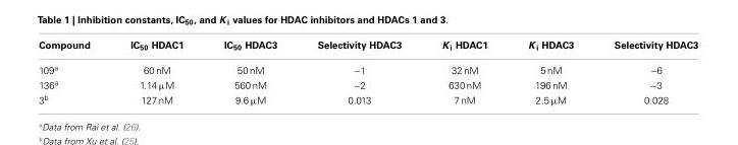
<table><thead><tr><td>Compound</td><td>IC<sub>50</sub> HDAC1</td><td>IC<sub>50</sub> HDAC3</td><td>Selectivity HDAC3</td><td>K <sub>i</sub> HDAC1</td><td>K <sub>i</sub> HDAC3</td><td>Selectivity HDAC3</td></tr></thead><tbody><tr><td>109<sup>a</sup></td><td>60 nM</td><td>50 nM</td><td>~1</td><td>32 nM</td><td>5 nM</td><td>~6</td></tr><tr><td>136<sup>a</sup></td><td>1.14 µM</td><td>560 nM</td><td>~2</td><td>630 nM</td><td>196 nM</td><td>~3</td></tr><tr><td>3<sup>b</sup></td><td>127 nM</td><td>9.6 µM</td><td>0.013</td><td>7 nM</td><td>2.5 µM</td><td>0.028</td></tr></tbody></table>